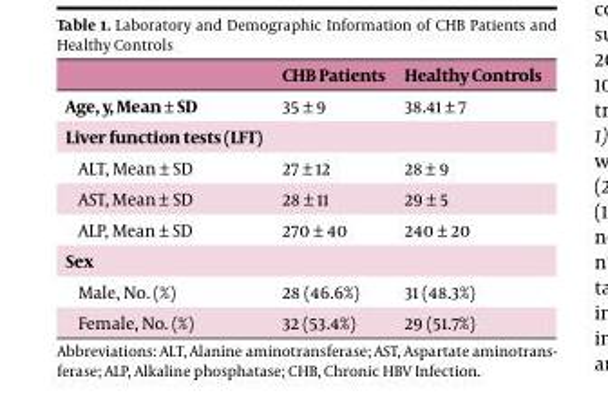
<table><thead><tr><td></td><td>CHB Patients</td><td>Healthy Controls</td></tr></thead><tbody><tr><td>Age, y, Mean ± SD</td><td>35 ± 9</td><td>38.41 ± 7</td></tr><tr><td colspan="3">Liver function tests (LFT)</td></tr><tr><td>ALT, Mean ± SD</td><td>27 ± 12</td><td>28 ± 9</td></tr><tr><td>AST, Mean ± SD</td><td>28 ± 11</td><td>29 ± 5</td></tr><tr><td>ALP, Mean ± SD</td><td>270 ± 40</td><td>240 ± 20</td></tr><tr><td colspan="3">Sex</td></tr><tr><td>Male, No. (%)</td><td>28 (46.6%)</td><td>31 (48.3%)</td></tr><tr><td>Female, No. (%)</td><td>32 (53.4%)</td><td>29 (51.7%)</td></tr></tbody></table>